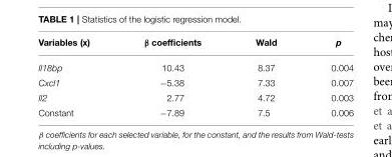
<table><thead><tr><td>Variables (x)</td><td>β coefficients</td><td>Wald</td><td>p</td></tr></thead><tbody><tr><td>Il18bp</td><td>10.43</td><td>8.37</td><td>0.004</td></tr><tr><td>Cxcl1</td><td>−5.38</td><td>7.33</td><td>0.007</td></tr><tr><td>Il2</td><td>2.77</td><td>4.72</td><td>0.003</td></tr><tr><td>Constant</td><td>−7.89</td><td>7.5</td><td>0.006</td></tr></tbody></table>